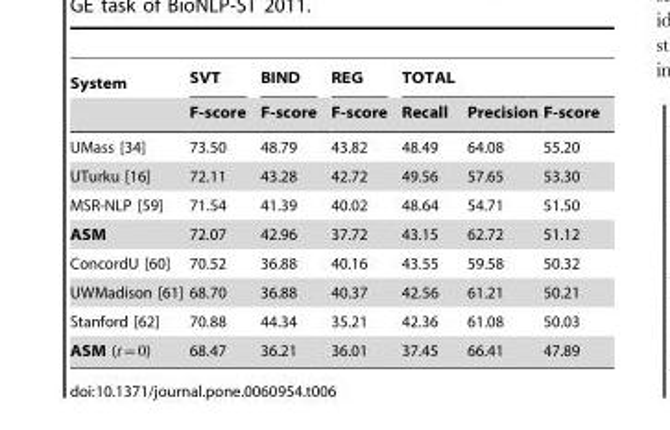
<table><thead><tr><td rowspan="2">System</td><td rowspan="2">SVT F-score</td><td rowspan="2">BIND F-score</td><td rowspan="2">REG F-score</td><td colspan="3">TOTAL</td></tr><tr><td>Recall</td><td>Precision</td><td>F-score</td></tr></thead><tbody><tr><td>UMass [34]</td><td>73.50</td><td>48.79</td><td>43.82</td><td>48.49</td><td>64.08</td><td>55.20</td></tr><tr><td>UTurku [16]</td><td>72.11</td><td>43.28</td><td>42.72</td><td>49.56</td><td>57.65</td><td>53.30</td></tr><tr><td>MSR-NLP [59]</td><td>71.54</td><td>41.39</td><td>40.02</td><td>48.64</td><td>54.71</td><td>51.50</td></tr><tr><td>ASM</td><td>72.07</td><td>42.96</td><td>37.72</td><td>43.15</td><td>62.72</td><td>51.12</td></tr><tr><td>ConcordU [60]</td><td>70.52</td><td>36.88</td><td>40.16</td><td>43.55</td><td>59.58</td><td>50.32</td></tr><tr><td>UWMadison [61]</td><td>68.70</td><td>36.88</td><td>40.37</td><td>42.56</td><td>61.21</td><td>50.21</td></tr><tr><td>Stanford [62]</td><td>70.88</td><td>44.34</td><td>35.21</td><td>42.36</td><td>61.08</td><td>50.03</td></tr><tr><td>ASM (t~0)</td><td>68.47</td><td>36.21</td><td>36.01</td><td>37.45</td><td>66.41</td><td>47.89</td></tr></tbody></table>